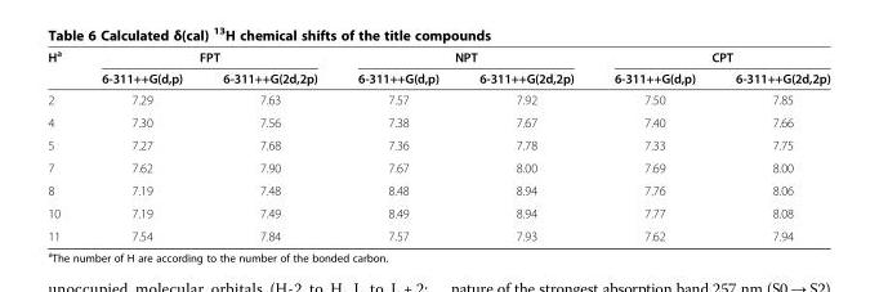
<table><thead><tr><td rowspan="2">H<sup>a</sup></td><td colspan="2">FPT</td><td colspan="2">NPT</td><td colspan="2">CPT</td></tr><tr><td>6-311++G(d,p)</td><td>6-311++G(2d,2p)</td><td>6-311++G(d,p)</td><td>6-311++G(2d,2p)</td><td>6-311++G(d,p)</td><td>6-311++G(2d,2p)</td></tr></thead><tbody><tr><td>2</td><td>7.29</td><td>7.63</td><td>7.57</td><td>7.92</td><td>7.50</td><td>7.85</td></tr><tr><td>4</td><td>7.30</td><td>7.56</td><td>7.38</td><td>7.67</td><td>7.40</td><td>7.66</td></tr><tr><td>5</td><td>7.27</td><td>7.68</td><td>7.36</td><td>7.78</td><td>7.33</td><td>7.75</td></tr><tr><td>7</td><td>7.62</td><td>7.90</td><td>7.67</td><td>8.00</td><td>7.69</td><td>8.00</td></tr><tr><td>8</td><td>7.19</td><td>7.48</td><td>8.48</td><td>8.94</td><td>7.76</td><td>8.06</td></tr><tr><td>10</td><td>7.19</td><td>7.49</td><td>8.49</td><td>8.94</td><td>7.77</td><td>8.08</td></tr><tr><td>11</td><td>7.54</td><td>7.84</td><td>7.57</td><td>7.93</td><td>7.62</td><td>7.94</td></tr></tbody></table>